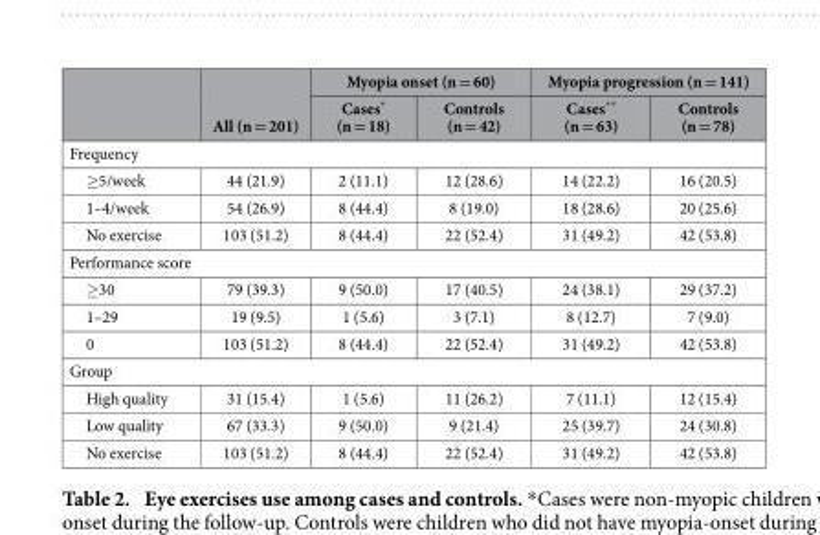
<table><thead><tr><td rowspan="2"></td><td rowspan="2">All (n = 201)</td><td colspan="2">Myopia onset (n = 60)</td><td colspan="2">Myopia progression (n = 141)</td></tr><tr><td>Cases* (n = 18)</td><td>Controls (n = 42)</td><td>Cases** (n = 63)</td><td>Controls (n = 78)</td></tr></thead><tbody><tr><td colspan="6">Frequency</td></tr><tr><td>≥5/week</td><td>44 (21.9)</td><td>2 (11.1)</td><td>12 (28.6)</td><td>14 (22.2)</td><td>16 (20.5)</td></tr><tr><td>1–4/week</td><td>54 (26.9)</td><td>8 (44.4)</td><td>8 (19.0)</td><td>18 (28.6)</td><td>20 (25.6)</td></tr><tr><td>No exercise</td><td>103 (51.2)</td><td>8 (44.4)</td><td>22 (52.4)</td><td>31 (49.2)</td><td>42 (53.8)</td></tr><tr><td colspan="6">Performance score</td></tr><tr><td>≥30</td><td>79 (39.3)</td><td>9 (50.0)</td><td>17 (40.5)</td><td>24 (38.1)</td><td>29 (37.2)</td></tr><tr><td>1–29</td><td>19 (9.5)</td><td>1 (5.6)</td><td>3 (7.1)</td><td>8 (12.7)</td><td>7 (9.0)</td></tr><tr><td>0</td><td>103 (51.2)</td><td>8 (44.4)</td><td>22 (52.4)</td><td>31 (49.2)</td><td>42 (53.8)</td></tr><tr><td colspan="6">Group</td></tr><tr><td>High quality</td><td>31 (15.4)</td><td>1 (5.6)</td><td>11 (26.2)</td><td>7 (11.1)</td><td>12 (15.4)</td></tr><tr><td>Low quality</td><td>67 (33.3)</td><td>9 (50.0)</td><td>9 (21.4)</td><td>25 (39.7)</td><td>24 (30.8)</td></tr><tr><td>No exercise</td><td>103 (51.2)</td><td>8 (44.4)</td><td>22 (52.4)</td><td>31 (49.2)</td><td>42 (53.8)</td></tr></tbody></table>